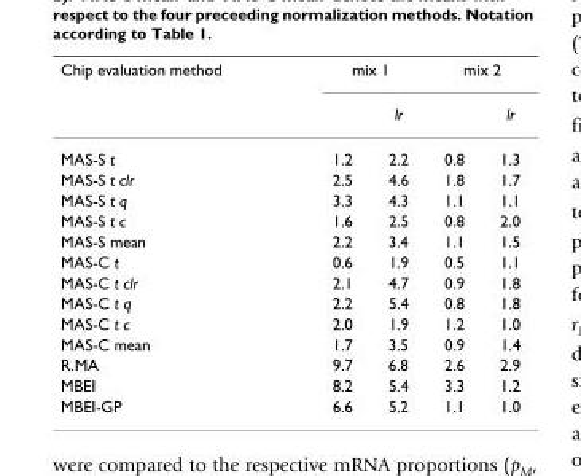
<table><thead><tr><td rowspan="2">Chip evaluation method</td><td colspan="2">mix 1</td><td colspan="2">mix 2</td></tr><tr><td></td><td>lr</td><td></td><td>lr</td></tr></thead><tbody><tr><td>MAS-S t</td><td>1.2</td><td>2.2</td><td>0.8</td><td>1.3</td></tr><tr><td>MAS-S t clr</td><td>2.5</td><td>4.6</td><td>1.8</td><td>1.7</td></tr><tr><td>MAS-S t q</td><td>3.3</td><td>4.3</td><td>1.1</td><td>1.1</td></tr><tr><td>MAS-S t c</td><td>1.6</td><td>2.5</td><td>0.8</td><td>2.0</td></tr><tr><td>MAS-S mean</td><td>2.2</td><td>3.4</td><td>1.1</td><td>1.5</td></tr><tr><td>MAS-C t</td><td>0.6</td><td>1.9</td><td>0.5</td><td>1.1</td></tr><tr><td>MAS-C t clr</td><td>2.1</td><td>4.7</td><td>0.9</td><td>1.8</td></tr><tr><td>MAS-C t q</td><td>2.2</td><td>5.4</td><td>0.8</td><td>1.8</td></tr><tr><td>MAS-C t c</td><td>2.0</td><td>1.9</td><td>1.2</td><td>1.0</td></tr><tr><td>MAS-C mean</td><td>1.7</td><td>3.5</td><td>0.9</td><td>1.4</td></tr><tr><td>R.MA</td><td>9.7</td><td>6.8</td><td>2.6</td><td>2.9</td></tr><tr><td>MBEI</td><td>8.2</td><td>5.4</td><td>3.3</td><td>1.2</td></tr><tr><td>MBEI-GP</td><td>6.6</td><td>5.2</td><td>1.1</td><td>1.0</td></tr></tbody></table>